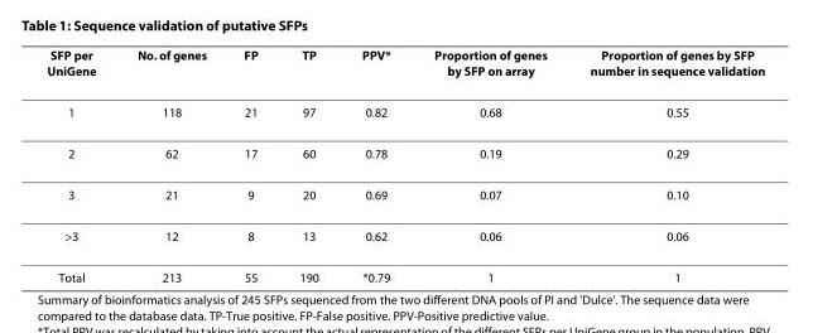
<table><thead><tr><td>SFP per UniGene</td><td>No. of genes</td><td>FP</td><td>TP</td><td>PPV*</td><td>Proportion of genes by SFP on array</td><td>Proportion of genes by SFP number in sequence validation</td></tr></thead><tbody><tr><td>1</td><td>118</td><td>21</td><td>97</td><td>0.82</td><td>0.68</td><td>0.55</td></tr><tr><td>2</td><td>62</td><td>17</td><td>60</td><td>0.78</td><td>0.19</td><td>0.29</td></tr><tr><td>3</td><td>21</td><td>9</td><td>20</td><td>0.69</td><td>0.07</td><td>0.10</td></tr><tr><td>&gt;3</td><td>12</td><td>8</td><td>13</td><td>0.62</td><td>0.06</td><td>0.06</td></tr><tr><td>Total</td><td>213</td><td>55</td><td>190</td><td>*0.79</td><td>1</td><td>1</td></tr></tbody></table>